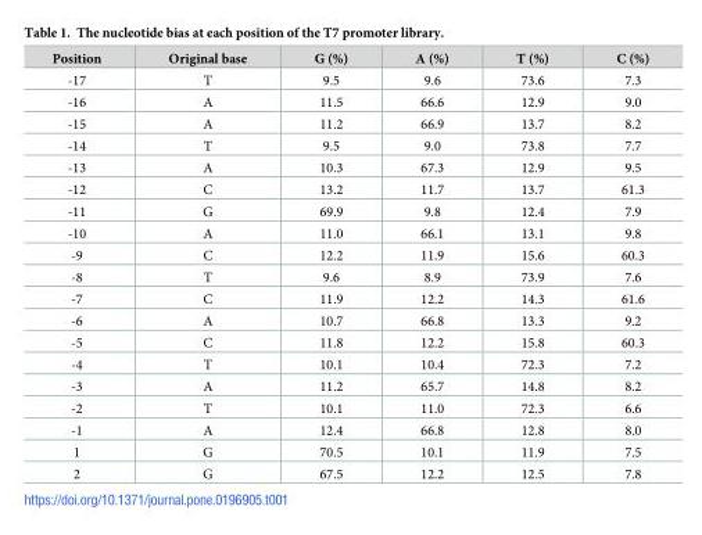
<table><thead><tr><td>Position</td><td>Original base</td><td>G (%)</td><td>A (%)</td><td>T (%)</td><td>C (%)</td></tr></thead><tbody><tr><td>-17</td><td>T</td><td>9.5</td><td>9.6</td><td>73.6</td><td>7.3</td></tr><tr><td>-16</td><td>A</td><td>11.5</td><td>66.6</td><td>12.9</td><td>9.0</td></tr><tr><td>-15</td><td>A</td><td>11.2</td><td>66.9</td><td>13.7</td><td>8.2</td></tr><tr><td>-14</td><td>T</td><td>9.5</td><td>9.0</td><td>73.8</td><td>7.7</td></tr><tr><td>-13</td><td>A</td><td>10.3</td><td>67.3</td><td>12.9</td><td>9.5</td></tr><tr><td>-12</td><td>C</td><td>13.2</td><td>11.7</td><td>13.7</td><td>61.3</td></tr><tr><td>-11</td><td>G</td><td>69.9</td><td>9.8</td><td>12.4</td><td>7.9</td></tr><tr><td>-10</td><td>A</td><td>11.0</td><td>66.1</td><td>13.1</td><td>9.8</td></tr><tr><td>-9</td><td>C</td><td>12.2</td><td>11.9</td><td>15.6</td><td>60.3</td></tr><tr><td>-8</td><td>T</td><td>9.6</td><td>8.9</td><td>73.9</td><td>7.6</td></tr><tr><td>-7</td><td>C</td><td>11.9</td><td>12.2</td><td>14.3</td><td>61.6</td></tr><tr><td>-6</td><td>A</td><td>10.7</td><td>66.8</td><td>13.3</td><td>9.2</td></tr><tr><td>-5</td><td>C</td><td>11.8</td><td>12.2</td><td>15.8</td><td>60.3</td></tr><tr><td>-4</td><td>T</td><td>10.1</td><td>10.4</td><td>72.3</td><td>7.2</td></tr><tr><td>-3</td><td>A</td><td>11.2</td><td>65.7</td><td>14.8</td><td>8.2</td></tr><tr><td>-2</td><td>T</td><td>10.1</td><td>11.0</td><td>72.3</td><td>6.6</td></tr><tr><td>-1</td><td>A</td><td>12.4</td><td>66.8</td><td>12.8</td><td>8.0</td></tr><tr><td>1</td><td>G</td><td>70.5</td><td>10.1</td><td>11.9</td><td>7.5</td></tr><tr><td>2</td><td>G</td><td>67.5</td><td>12.2</td><td>12.5</td><td>7.8</td></tr></tbody></table>